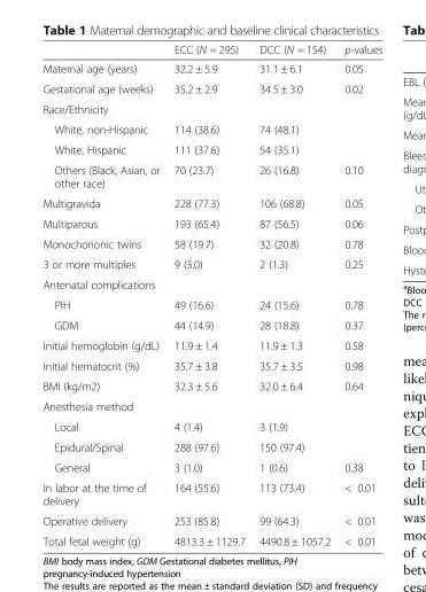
<table><thead><tr><td></td><td>ECC (N = 295)</td><td>DCC (N = 154)</td><td>p-values</td></tr></thead><tbody><tr><td>Maternal age (years)</td><td>32.2 ± 5.9</td><td>31.1 ± 6.1</td><td>0.05</td></tr><tr><td>Gestational age (weeks)</td><td>35.2 ± 2.9</td><td>34.5 ± 3.0</td><td>0.02</td></tr><tr><td colspan="4">Race/Ethnicity</td></tr><tr><td>White, non-Hispanic</td><td>114 (38.6)</td><td>74 (48.1)</td><td></td></tr><tr><td>White, Hispanic</td><td>111 (37.6)</td><td>54 (35.1)</td><td></td></tr><tr><td>Others (Black, Asian, or other race)</td><td>70 (23.7)</td><td>26 (16.8)</td><td>0.10</td></tr><tr><td>Multigravida</td><td>228 (77.3)</td><td>106 (68.8)</td><td>0.05</td></tr><tr><td>Multiparous</td><td>193 (65.4)</td><td>87 (56.5)</td><td>0.06</td></tr><tr><td>Monochorionic twins</td><td>58 (19.7)</td><td>32 (20.8)</td><td>0.78</td></tr><tr><td>3 or more multiples</td><td>9 (3.0)</td><td>2 (1.3)</td><td>0.25</td></tr><tr><td colspan="4">Antenatal complications</td></tr><tr><td>PIH</td><td>49 (16.6)</td><td>24 (15.6)</td><td>0.78</td></tr><tr><td>GDM</td><td>44 (14.9)</td><td>28 (18.8)</td><td>0.37</td></tr><tr><td>Initial hemoglobin (g/dL)</td><td>11.9 ± 1.4</td><td>11.9 ± 1.3</td><td>0.58</td></tr><tr><td>Initial hematocrit (%)</td><td>35.7 ± 3.8</td><td>35.7 ± 3.5</td><td>0.98</td></tr><tr><td>BMI (kg/m2)</td><td>32.3 ± 5.6</td><td>32.0 ± 6.4</td><td>0.64</td></tr><tr><td colspan="4">Anesthesia method</td></tr><tr><td>Local</td><td>4 (1.4)</td><td>3 (1.9)</td><td></td></tr><tr><td>Epidural/Spinal</td><td>288 (97.6)</td><td>150 (97.4)</td><td></td></tr><tr><td>General</td><td>3 (1.0)</td><td>1 (0.6)</td><td>0.38</td></tr><tr><td>In labor at the time of delivery</td><td>164 (55.6)</td><td>113 (73.4)</td><td>&lt; 0.01</td></tr><tr><td>Operative delivery</td><td>253 (85.8)</td><td>99 (64.3)</td><td>&lt; 0.01</td></tr><tr><td>Total fetal weight (g)</td><td>4813.3 ± 1129.7</td><td>4490.8 ± 1057.2</td><td>&lt; 0.01</td></tr></tbody></table>